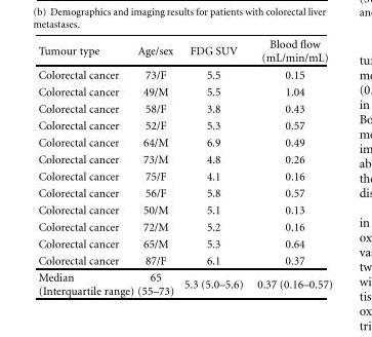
<table><thead><tr><td>Tumour type</td><td>Age/sex</td><td>FDG SUV</td><td>Blood flow (mL/min/mL)</td></tr></thead><tbody><tr><td>Colorectal cancer</td><td>73/F</td><td>5.5</td><td>0.15</td></tr><tr><td>Colorectal cancer</td><td>49/M</td><td>5.5</td><td>1.04</td></tr><tr><td>Colorectal cancer</td><td>58/F</td><td>3.8</td><td>0.43</td></tr><tr><td>Colorectal cancer</td><td>52/F</td><td>5.3</td><td>0.57</td></tr><tr><td>Colorectal cancer</td><td>64/M</td><td>6.9</td><td>0.49</td></tr><tr><td>Colorectal cancer</td><td>73/M</td><td>4.8</td><td>0.26</td></tr><tr><td>Colorectal cancer</td><td>75/F</td><td>4.1</td><td>0.16</td></tr><tr><td>Colorectal cancer</td><td>56/F</td><td>5.8</td><td>0.57</td></tr><tr><td>Colorectal cancer</td><td>50/M</td><td>5.1</td><td>0.13</td></tr><tr><td>Colorectal cancer</td><td>72/M</td><td>5.2</td><td>0.16</td></tr><tr><td>Colorectal cancer</td><td>65/M</td><td>5.3</td><td>0.64</td></tr><tr><td>Colorectal cancer</td><td>87/F</td><td>6.1</td><td>0.37</td></tr><tr><td>Median (Interquartile range)</td><td>65 (55–73)</td><td>5.3 (5.0–5.6)</td><td>0.37 (0.16–0.57)</td></tr></tbody></table>